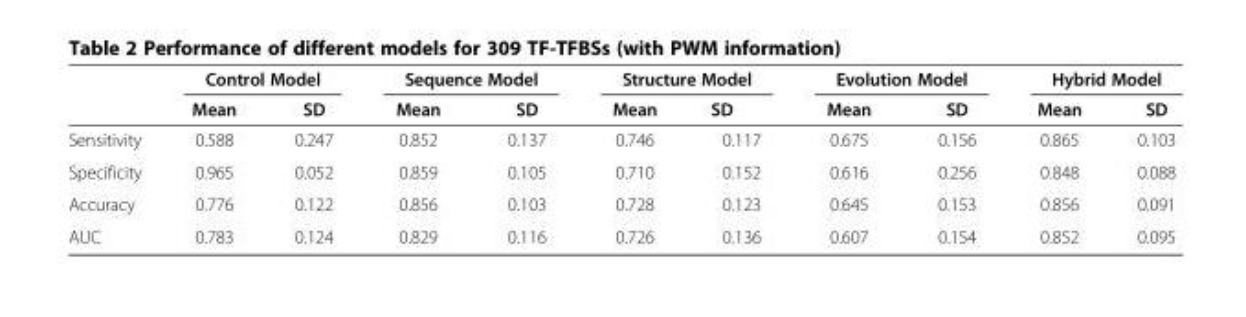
<table><thead><tr><td rowspan="2"></td><td colspan="2">Control Model</td><td colspan="2">Sequence Model</td><td colspan="2">Structure Model</td><td colspan="2">Evolution Model</td><td colspan="2">Hybrid Model</td></tr><tr><td>Mean</td><td>SD</td><td>Mean</td><td>SD</td><td>Mean</td><td>SD</td><td>Mean</td><td>SD</td><td>Mean</td><td>SD</td></tr></thead><tbody><tr><td>Sensitivity</td><td>0.588</td><td>0.247</td><td>0.852</td><td>0.137</td><td>0.746</td><td>0.117</td><td>0.675</td><td>0.156</td><td>0.865</td><td>0.103</td></tr><tr><td>Specificity</td><td>0.965</td><td>0.052</td><td>0.859</td><td>0.105</td><td>0.710</td><td>0.152</td><td>0.616</td><td>0.256</td><td>0.848</td><td>0.088</td></tr><tr><td>Accuracy</td><td>0.776</td><td>0.122</td><td>0.856</td><td>0.103</td><td>0.728</td><td>0.123</td><td>0.645</td><td>0.153</td><td>0.856</td><td>0.091</td></tr><tr><td>AUC</td><td>0.783</td><td>0.124</td><td>0.829</td><td>0.116</td><td>0.726</td><td>0.136</td><td>0.607</td><td>0.154</td><td>0.852</td><td>0.095</td></tr></tbody></table>